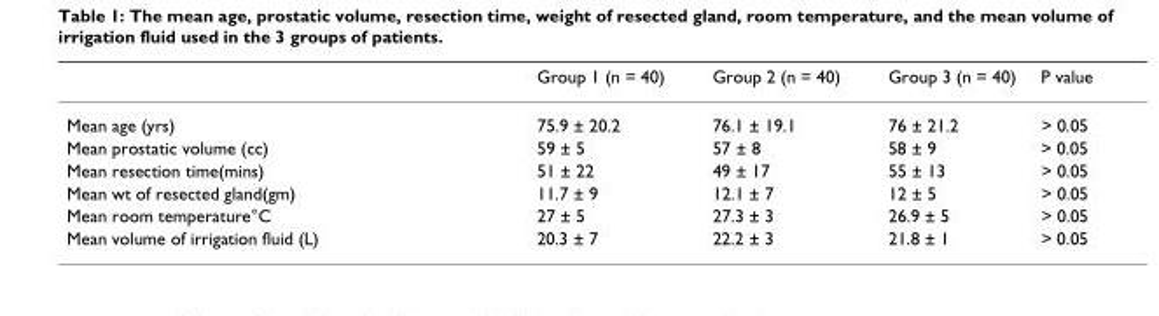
<table><thead><tr><td></td><td>Group 1 (n = 40)</td><td>Group 2 (n = 40)</td><td>Group 3 (n = 40)</td><td>P value</td></tr></thead><tbody><tr><td>Mean age (yrs)</td><td>75.9 ± 20.2</td><td>76.1 ± 19.1</td><td>76 ± 21.2</td><td>&gt; 0.05</td></tr><tr><td>Mean prostatic volume (cc)</td><td>59 ± 5</td><td>57 ± 8</td><td>58 ± 9</td><td>&gt; 0.05</td></tr><tr><td>Mean resection time(mins)</td><td>51 ± 22</td><td>49 ± 17</td><td>55 ± 13</td><td>&gt; 0.05</td></tr><tr><td>Mean wt of resected gland(gm)</td><td>11.7 ± 9</td><td>12.1 ± 7</td><td>12 ± 5</td><td>&gt; 0.05</td></tr><tr><td>Mean room temperature°C</td><td>27 ± 5</td><td>27.3 ± 3</td><td>26.9 ± 5</td><td>&gt; 0.05</td></tr><tr><td>Mean volume of irrigation fluid (L)</td><td>20.3 ± 7</td><td>22.2 ± 3</td><td>21.8 ± 1</td><td>&gt; 0.05</td></tr></tbody></table>